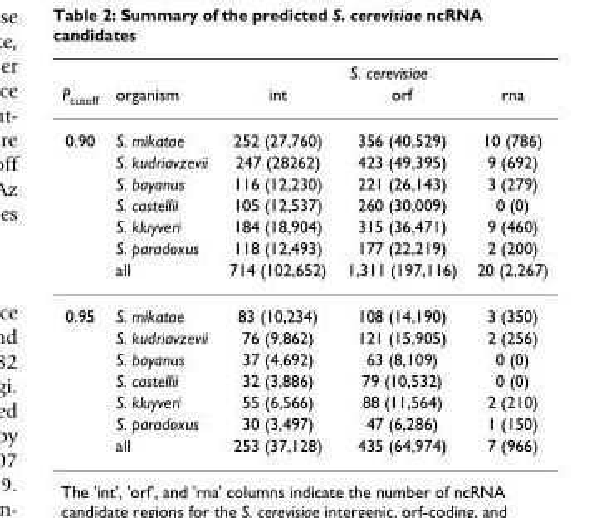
<table><thead><tr><td rowspan="2">P<sub>cutoff</sub></td><td rowspan="2">organism</td><td colspan="3">S. cerevisiae</td></tr><tr><td>int</td><td>orf</td><td>rna</td></tr></thead><tbody><tr><td rowspan="7">0.90</td><td>S. mikatae</td><td>252 (27,760)</td><td>356 (40,529)</td><td>10 (786)</td></tr><tr><td>S. kudriavzevii</td><td>247 (28262)</td><td>423 (49,395)</td><td>9 (692)</td></tr><tr><td>S. bayanus</td><td>116 (12,230)</td><td>221 (26,143)</td><td>3 (279)</td></tr><tr><td>S. castellii</td><td>105 (12,537)</td><td>260 (30,009)</td><td>0 (0)</td></tr><tr><td>S. kluyveri</td><td>184 (18,904)</td><td>315 (36,471)</td><td>9 (460)</td></tr><tr><td>S. paradoxus</td><td>118 (12,493)</td><td>177 (22,219)</td><td>2 (200)</td></tr><tr><td>all</td><td>714 (102,652)</td><td>1,311 (197,116)</td><td>20 (2,267)</td></tr><tr><td rowspan="7">0.95</td><td>S. mikatae</td><td>83 (10,234)</td><td>108 (14,190)</td><td>3 (350)</td></tr><tr><td>S. kudriavzevii</td><td>76 (9,862)</td><td>121 (15,905)</td><td>2 (256)</td></tr><tr><td>S. bayanus</td><td>37 (4,692)</td><td>63 (8,109)</td><td>0 (0)</td></tr><tr><td>S. castellii</td><td>32 (3,886)</td><td>79 (10,532)</td><td>0 (0)</td></tr><tr><td>S. kluyveri</td><td>55 (6,566)</td><td>88 (11,564)</td><td>2 (210)</td></tr><tr><td>S. paradoxus</td><td>30 (3,497)</td><td>47 (6,286)</td><td>1 (150)</td></tr><tr><td>all</td><td>253 (37,128)</td><td>435 (64,974)</td><td>7 (966)</td></tr></tbody></table>